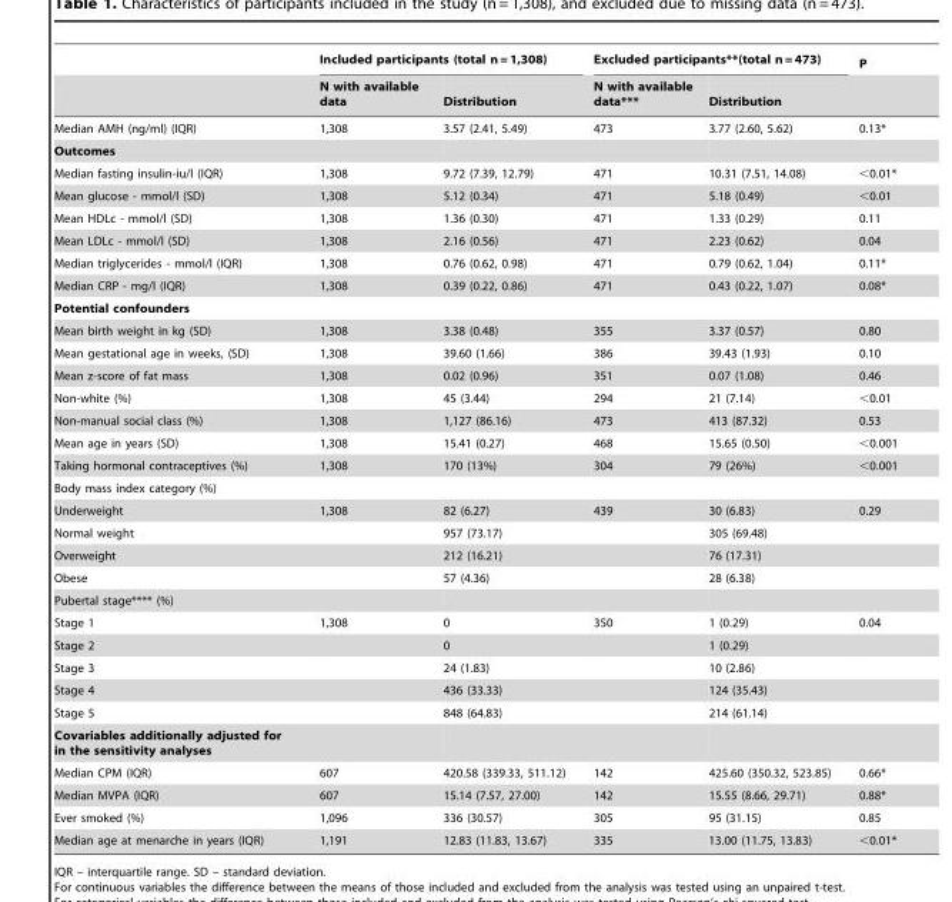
<table><thead><tr><td rowspan="2"></td><td colspan="2">Included participants (total n = 1,308)</td><td colspan="2">Excluded participants**(total n = 473)</td><td rowspan="2">P</td></tr><tr><td>N with available data</td><td>Distribution</td><td>N with available data***</td><td>Distribution</td></tr></thead><tbody><tr><td>Median AMH (ng/ml) (IQR)</td><td>1,308</td><td>3.57 (2.41, 5.49)</td><td>473</td><td>3.77 (2.60, 5.62)</td><td>0.13*</td></tr><tr><td colspan="6">Outcomes</td></tr><tr><td>Median fasting insulin-iu/l (IQR)</td><td>1,308</td><td>9.72 (7.39, 12.79)</td><td>471</td><td>10.31 (7.51, 14.08)</td><td>&lt;0.01*</td></tr><tr><td>Mean glucose - mmol/l (SD)</td><td>1,308</td><td>5.12 (0.34)</td><td>471</td><td>5.18 (0.49)</td><td>&lt;0.01</td></tr><tr><td>Mean HDLc - mmol/l (SD)</td><td>1,308</td><td>1.36 (0.30)</td><td>471</td><td>1.33 (0.29)</td><td>0.11</td></tr><tr><td>Mean LDLc - mmol/l (SD)</td><td>1,308</td><td>2.16 (0.56)</td><td>471</td><td>2.23 (0.62)</td><td>0.04</td></tr><tr><td>Median triglycerides - mmol/l (IQR)</td><td>1,308</td><td>0.76 (0.62, 0.98)</td><td>471</td><td>0.79 (0.62, 1.04)</td><td>0.11*</td></tr><tr><td>Median CRP - mg/l (IQR)</td><td>1,308</td><td>0.39 (0.22, 0.86)</td><td>471</td><td>0.43 (0.22, 1.07)</td><td>0.08*</td></tr><tr><td colspan="6">Potential confounders</td></tr><tr><td>Mean birth weight in kg (SD)</td><td>1,308</td><td>3.38 (0.48)</td><td>355</td><td>3.37 (0.57)</td><td>0.80</td></tr><tr><td>Mean gestational age in weeks, (SD)</td><td>1,308</td><td>39.60 (1.66)</td><td>386</td><td>39.43 (1.93)</td><td>0.10</td></tr><tr><td>Mean z-score of fat mass</td><td>1,308</td><td>0.02 (0.96)</td><td>351</td><td>0.07 (1.08)</td><td>0.46</td></tr><tr><td>Non-white (%)</td><td>1,308</td><td>45 (3.44)</td><td>294</td><td>21 (7.14)</td><td>&lt;0.01</td></tr><tr><td>Non-manual social class (%)</td><td>1,308</td><td>1,127 (86.16)</td><td>473</td><td>413 (87.32)</td><td>0.53</td></tr><tr><td>Mean age in years (SD)</td><td>1,308</td><td>15.41 (0.27)</td><td>468</td><td>15.65 (0.50)</td><td>&lt;0.001</td></tr><tr><td>Taking hormonal contraceptives (%)</td><td>1,308</td><td>170 (13%)</td><td>304</td><td>79 (26%)</td><td>&lt;0.001</td></tr><tr><td colspan="6">Body mass index category (%)</td></tr><tr><td>Underweight</td><td>1,308</td><td>82 (6.27)</td><td>439</td><td>30 (6.83)</td><td>0.29</td></tr><tr><td>Normal weight</td><td></td><td>957 (73.17)</td><td></td><td>305 (69.48)</td><td></td></tr><tr><td>Overweight</td><td></td><td>212 (16.21)</td><td></td><td>76 (17.31)</td><td></td></tr><tr><td>Obese</td><td></td><td>57 (4.36)</td><td></td><td>28 (6.38)</td><td></td></tr><tr><td colspan="6">Pubertal stage**** (%)</td></tr><tr><td>Stage 1</td><td>1,308</td><td>0</td><td>350</td><td>1 (0.29)</td><td>0.04</td></tr><tr><td>Stage 2</td><td></td><td>0</td><td></td><td>1 (0.29)</td><td></td></tr><tr><td>Stage 3</td><td></td><td>24 (1.83)</td><td></td><td>10 (2.86)</td><td></td></tr><tr><td>Stage 4</td><td></td><td>436 (33.33)</td><td></td><td>124 (35.43)</td><td></td></tr><tr><td>Stage 5</td><td></td><td>848 (64.83)</td><td></td><td>214 (61.14)</td><td></td></tr><tr><td colspan="6">Covariables additionally adjusted for in the sensitivity analyses</td></tr><tr><td>Median CPM (IQR)</td><td>607</td><td>420.58 (339.33, 511.12)</td><td>142</td><td>425.60 (350.32, 523.85)</td><td>0.66*</td></tr><tr><td>Median MVPA (IQR)</td><td>607</td><td>15.14 (7.57, 27.00)</td><td>142</td><td>15.55 (8.66, 29.71)</td><td>0.88*</td></tr><tr><td>Ever smoked (%)</td><td>1,096</td><td>336 (30.57)</td><td>305</td><td>95 (31.15)</td><td>0.85</td></tr><tr><td>Median age at menarche in years (IQR)</td><td>1,191</td><td>12.83 (11.83, 13.67)</td><td>335</td><td>13.00 (11.75, 13.83)</td><td>&lt;0.01*</td></tr></tbody></table>